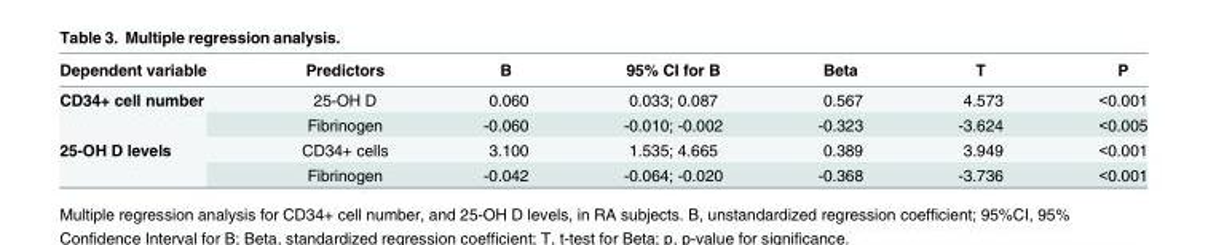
<table><thead><tr><td>Dependent variable</td><td>Predictors</td><td>B</td><td>95% CI for B</td><td>Beta</td><td>T</td><td>P</td></tr></thead><tbody><tr><td rowspan="2">CD34+ cell number</td><td>25-OH D</td><td>0.060</td><td>0.033; 0.087</td><td>0.567</td><td>4.573</td><td>&lt;0.001</td></tr><tr><td>Fibrinogen</td><td>-0.060</td><td>-0.010; -0.002</td><td>-0.323</td><td>-3.624</td><td>&lt;0.005</td></tr><tr><td rowspan="2">25-OH D levels</td><td>CD34+ cells</td><td>3.100</td><td>1.535; 4.665</td><td>0.389</td><td>3.949</td><td>&lt;0.001</td></tr><tr><td>Fibrinogen</td><td>-0.042</td><td>-0.064; -0.020</td><td>-0.368</td><td>-3.736</td><td>&lt;0.001</td></tr></tbody></table>